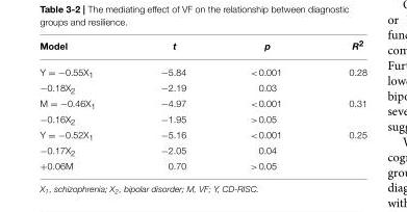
<table><thead><tr><td>Model</td><td>t</td><td>p</td><td>R<sup>2</sup></td></tr></thead><tbody><tr><td>Y = −0.55X<sub>1</sub></td><td>−5.84</td><td>&lt;0.001</td><td>0.28</td></tr><tr><td>−0.18X<sub>2</sub></td><td>−2.19</td><td>0.03</td><td></td></tr><tr><td>M = −0.46X<sub>1</sub></td><td>−4.97</td><td>&lt;0.001</td><td>0.31</td></tr><tr><td>−0.16X<sub>2</sub></td><td>−1.95</td><td>&gt;0.05</td><td></td></tr><tr><td>Y = −0.52X<sub>1</sub></td><td>−5.16</td><td>&lt;0.001</td><td>0.25</td></tr><tr><td>−0.17X<sub>2</sub></td><td>−2.05</td><td>0.04</td><td></td></tr><tr><td>+0.06M</td><td>0.70</td><td>&gt;0.05</td><td></td></tr></tbody></table>